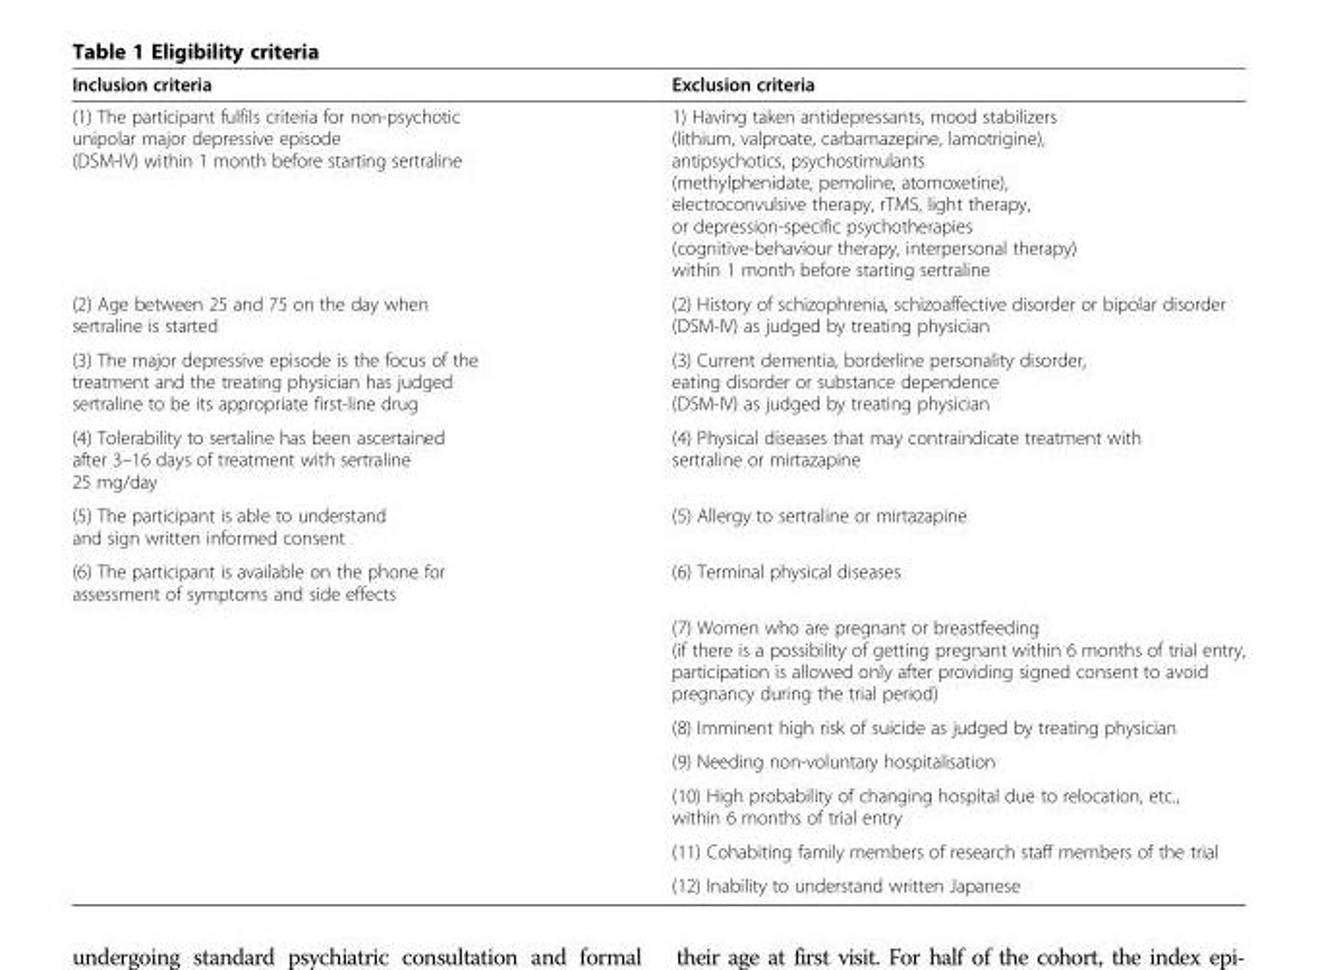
<table><thead><tr><td>Inclusion criteria</td><td>Exclusion criteria</td></tr></thead><tbody><tr><td>(1) The participant fulfils criteria for non-psychotic unipolar major depressive episode (DSM-IV) within 1 month before starting sertraline</td><td>1) Having taken antidepressants, mood stabilizers (lithium, valproate, carbamazepine, lamotrigine), antipsychotics, psychostimulants (methylphenidate, pemoline, atomoxetine), electroconvulsive therapy, rTMS, light therapy, or depression-specific psychotherapies (cognitive-behaviour therapy, interpersonal therapy) within 1 month before starting sertraline</td></tr><tr><td>(2) Age between 25 and 75 on the day when sertraline is started</td><td>(2) History of schizophrenia, schizoaffective disorder or bipolar disorder (DSM-IV) as judged by treating physician</td></tr><tr><td>(3) The major depressive episode is the focus of the treatment and the treating physician has judged sertraline to be its appropriate first-line drug</td><td>(3) Current dementia, borderline personality disorder, eating disorder or substance dependence (DSM-IV) as judged by treating physician</td></tr><tr><td>(4) Tolerability to sertaline has been ascertained after 3–16 days of treatment with sertraline 25 mg/day</td><td>(4) Physical diseases that may contraindicate treatment with sertraline or mirtazapine</td></tr><tr><td>(5) The participant is able to understand and sign written informed consent</td><td>(5) Allergy to sertraline or mirtazapine</td></tr><tr><td rowspan="7">(6) The participant is available on the phone for assessment of symptoms and side effects</td><td>(6) Terminal physical diseases</td></tr><tr><td>(7) Women who are pregnant or breastfeeding (if there is a possibility of getting pregnant within 6 months of trial entry, participation is allowed only after providing signed consent to avoid pregnancy during the trial period)</td></tr><tr><td>(8) Imminent high risk of suicide as judged by treating physician</td></tr><tr><td>(9) Needing non-voluntary hospitalisation</td></tr><tr><td>(10) High probability of changing hospital due to relocation, etc., within 6 months of trial entry</td></tr><tr><td>(11) Cohabiting family members of research staff members of the trial</td></tr><tr><td>(12) Inability to understand written Japanese</td></tr></tbody></table>